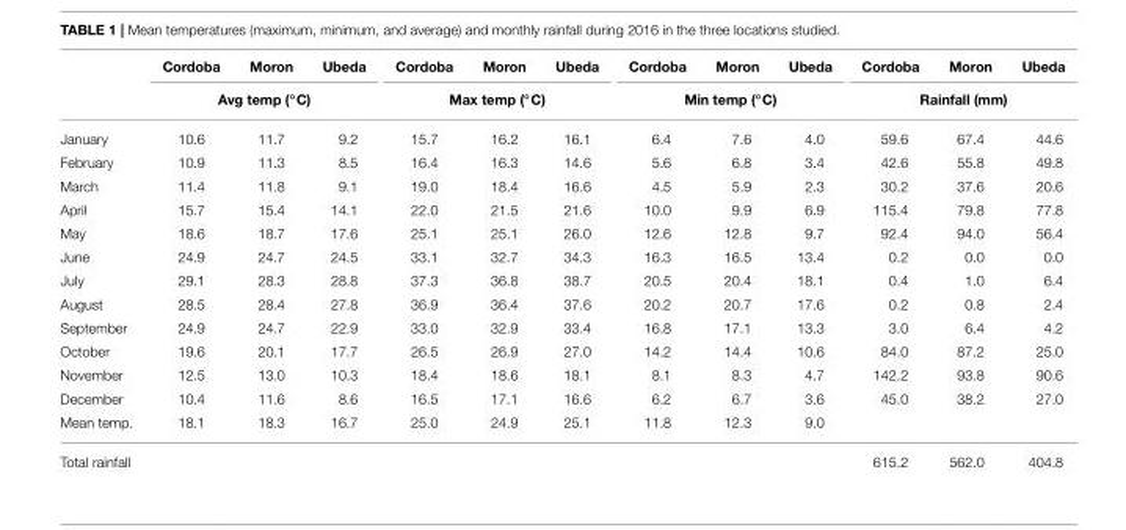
<table><thead><tr><td rowspan="2"></td><td>Cordoba</td><td>Moron</td><td>Ubeda</td><td>Cordoba</td><td>Moron</td><td>Ubeda</td><td>Cordoba</td><td>Moron</td><td>Ubeda</td><td>Cordoba</td><td>Moron</td><td>Ubeda</td></tr><tr><td colspan="3">Avg temp (◦C)</td><td colspan="3">Max temp (◦C)</td><td colspan="3">Min temp (◦C)</td><td colspan="3">Rainfall (mm)</td></tr></thead><tbody><tr><td>January</td><td>10.6</td><td>11.7</td><td>9.2</td><td>15.7</td><td>16.2</td><td>16.1</td><td>6.4</td><td>7.6</td><td>4.0</td><td>59.6</td><td>67.4</td><td>44.6</td></tr><tr><td>February</td><td>10.9</td><td>11.3</td><td>8.5</td><td>16.4</td><td>16.3</td><td>14.6</td><td>5.6</td><td>6.8</td><td>3.4</td><td>42.6</td><td>55.8</td><td>49.8</td></tr><tr><td>March</td><td>11.4</td><td>11.8</td><td>9.1</td><td>19.0</td><td>18.4</td><td>16.6</td><td>4.5</td><td>5.9</td><td>2.3</td><td>30.2</td><td>37.6</td><td>20.6</td></tr><tr><td>April</td><td>15.7</td><td>15.4</td><td>14.1</td><td>22.0</td><td>21.5</td><td>21.6</td><td>10.0</td><td>9.9</td><td>6.9</td><td>115.4</td><td>79.8</td><td>77.8</td></tr><tr><td>May</td><td>18.6</td><td>18.7</td><td>17.6</td><td>25.1</td><td>25.1</td><td>26.0</td><td>12.6</td><td>12.8</td><td>9.7</td><td>92.4</td><td>94.0</td><td>56.4</td></tr><tr><td>June</td><td>24.9</td><td>24.7</td><td>24.5</td><td>33.1</td><td>32.7</td><td>34.3</td><td>16.3</td><td>16.5</td><td>13.4</td><td>0.2</td><td>0.0</td><td>0.0</td></tr><tr><td>July</td><td>29.1</td><td>28.3</td><td>28.8</td><td>37.3</td><td>36.8</td><td>38.7</td><td>20.5</td><td>20.4</td><td>18.1</td><td>0.4</td><td>1.0</td><td>6.4</td></tr><tr><td>August</td><td>28.5</td><td>28.4</td><td>27.8</td><td>36.9</td><td>36.4</td><td>37.6</td><td>20.2</td><td>20.7</td><td>17.6</td><td>0.2</td><td>0.8</td><td>2.4</td></tr><tr><td>September</td><td>24.9</td><td>24.7</td><td>22.9</td><td>33.0</td><td>32.9</td><td>33.4</td><td>16.8</td><td>17.1</td><td>13.3</td><td>3.0</td><td>6.4</td><td>4.2</td></tr><tr><td>October</td><td>19.6</td><td>20.1</td><td>17.7</td><td>26.5</td><td>26.9</td><td>27.0</td><td>14.2</td><td>14.4</td><td>10.6</td><td>84.0</td><td>87.2</td><td>25.0</td></tr><tr><td>November</td><td>12.5</td><td>13.0</td><td>10.3</td><td>18.4</td><td>18.6</td><td>18.1</td><td>8.1</td><td>8.3</td><td>4.7</td><td>142.2</td><td>93.8</td><td>90.6</td></tr><tr><td>December</td><td>10.4</td><td>11.6</td><td>8.6</td><td>16.5</td><td>17.1</td><td>16.6</td><td>6.2</td><td>6.7</td><td>3.6</td><td>45.0</td><td>38.2</td><td>27.0</td></tr><tr><td>Mean temp.</td><td>18.1</td><td>18.3</td><td>16.7</td><td>25.0</td><td>24.9</td><td>25.1</td><td>11.8</td><td>12.3</td><td>9.0</td><td></td><td></td><td></td></tr><tr><td>Total rainfall</td><td></td><td></td><td></td><td></td><td></td><td></td><td></td><td></td><td></td><td>615.2</td><td>562.0</td><td>404.8</td></tr></tbody></table>